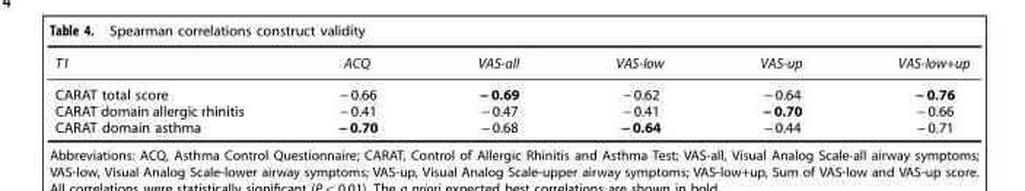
<table><thead><tr><td>T1</td><td>ACQ</td><td>VAS-all</td><td>VAS-low</td><td>VAS-up</td><td>VAS-low+up</td></tr></thead><tbody><tr><td>CARAT total score</td><td>− 0.66</td><td>− 0.69</td><td>− 0.62</td><td>− 0.64</td><td>− 0.76</td></tr><tr><td>CARAT domain allergic rhinitis</td><td>− 0.41</td><td>− 0.47</td><td>− 0.41</td><td>− 0.70</td><td>− 0.66</td></tr><tr><td>CARAT domain asthma</td><td>− 0.70</td><td>− 0.68</td><td>− 0.64</td><td>− 0.44</td><td>− 0.71</td></tr></tbody></table>